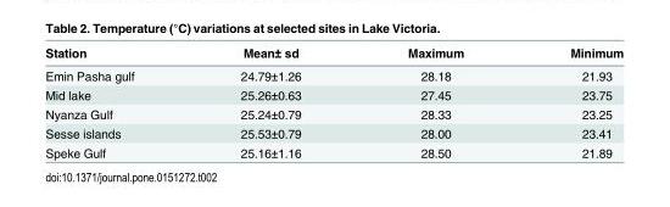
<table><thead><tr><td>Station</td><td>Mean± sd</td><td>Maximum</td><td>Minimum</td></tr></thead><tbody><tr><td>Emin Pasha gulf</td><td>24.79±1.26</td><td>28.18</td><td>21.93</td></tr><tr><td>Mid lake</td><td>25.26±0.63</td><td>27.45</td><td>23.75</td></tr><tr><td>Nyanza Gulf</td><td>25.24±0.79</td><td>28.33</td><td>23.25</td></tr><tr><td>Sesse islands</td><td>25.53±0.79</td><td>28.00</td><td>23.41</td></tr><tr><td>Speke Gulf</td><td>25.16±1.16</td><td>28.50</td><td>21.89</td></tr></tbody></table>